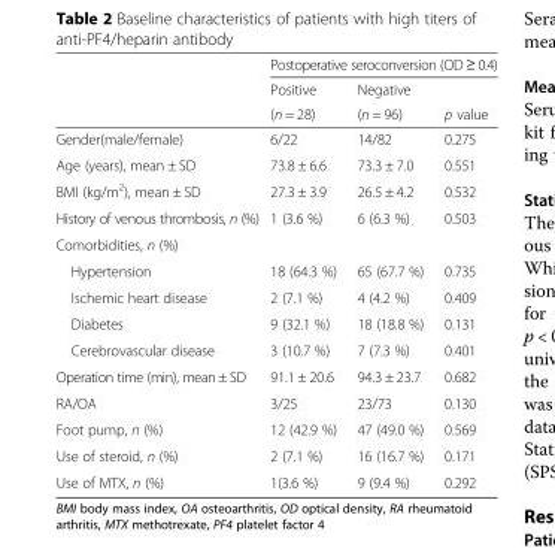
<table><thead><tr><td rowspan="3"></td><td colspan="3">Postoperative seroconversion (OD ≥ 0.4)</td></tr><tr><td rowspan="2">Positive (n = 28)</td><td rowspan="2">Negative (n = 96)</td><td rowspan="2">p value</td></tr><tr></tr></thead><tbody><tr><td>Gender(male/female)</td><td>6/22</td><td>14/82</td><td>0.275</td></tr><tr><td>Age (years), mean ± SD</td><td>73.8 ± 6.6</td><td>73.3 ± 7.0</td><td>0.551</td></tr><tr><td>BMI (kg/m<sup>2</sup>), mean ± SD</td><td>27.3 ± 3.9</td><td>26.5 ± 4.2</td><td>0.532</td></tr><tr><td>History of venous thrombosis, n (%)</td><td>1 (3.6 %)</td><td>6 (6.3 %)</td><td>0.503</td></tr><tr><td colspan="4">Comorbidities, n (%)</td></tr><tr><td>Hypertension</td><td>18 (64.3 %)</td><td>65 (67.7 %)</td><td>0.735</td></tr><tr><td>Ischemic heart disease</td><td>2 (7.1 %)</td><td>4 (4.2 %)</td><td>0.409</td></tr><tr><td>Diabetes</td><td>9 (32.1 %)</td><td>18 (18.8 %)</td><td>0.131</td></tr><tr><td>Cerebrovascular disease</td><td>3 (10.7 %)</td><td>7 (7.3 %)</td><td>0.401</td></tr><tr><td>Operation time (min), mean ± SD</td><td>91.1 ± 20.6</td><td>94.3 ± 23.7</td><td>0.682</td></tr><tr><td>RA/OA</td><td>3/25</td><td>23/73</td><td>0.130</td></tr><tr><td>Foot pump, n (%)</td><td>12 (42.9 %)</td><td>47 (49.0 %)</td><td>0.569</td></tr><tr><td>Use of steroid, n (%)</td><td>2 (7.1 %)</td><td>16 (16.7 %)</td><td>0.171</td></tr><tr><td>Use of MTX, n (%)</td><td>1(3.6 %)</td><td>9 (9.4 %)</td><td>0.292</td></tr></tbody></table>